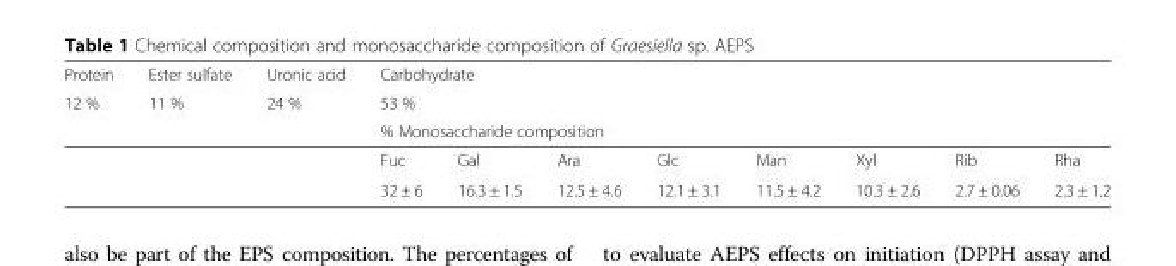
<table><thead><tr><td rowspan="4">Protein 12 %</td><td rowspan="4">Ester sulfate 11 %</td><td rowspan="4">Uronic acid 24 %</td><td rowspan="3" colspan="8">Carbohydrate 53 % % Monosaccharide composition</td></tr><tr></tr><tr></tr><tr><td>Fuc</td><td>Gal</td><td>Ara</td><td>Glc</td><td>Man</td><td>Xyl</td><td>Rib</td><td>Rha</td></tr></thead><tbody><tr><td></td><td></td><td></td><td>32 ± 6</td><td>16.3 ± 1.5</td><td>12.5 ± 4.6</td><td>12.1 ± 3.1</td><td>11.5 ± 4.2</td><td>10.3 ± 2.6</td><td>2.7 ± 0.06</td><td>2.3 ± 1.2</td></tr></tbody></table>